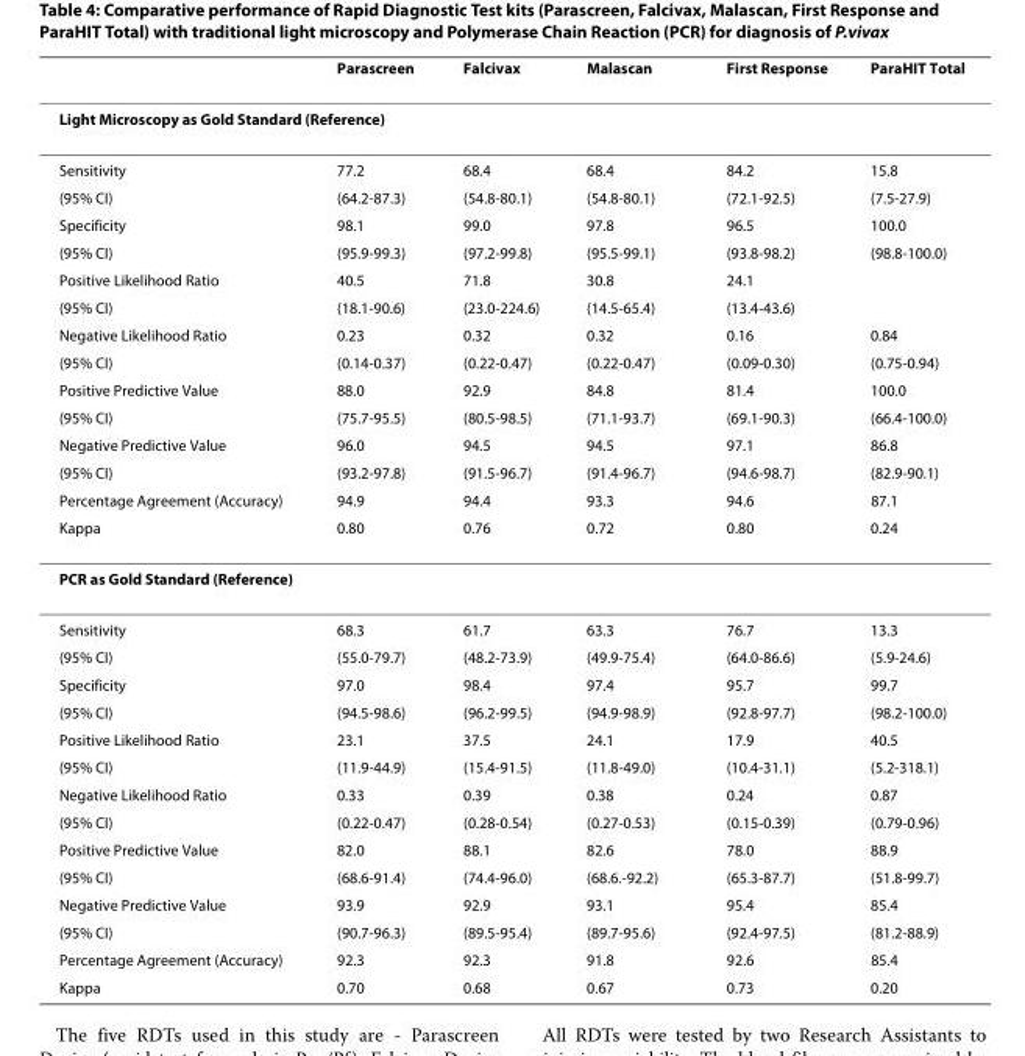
<table><thead><tr><td></td><td>Parascreen</td><td>Falcivax</td><td>Malascan</td><td>First Response</td><td>ParaHIT Total</td></tr></thead><tbody><tr><td colspan="6">Light Microscopy as Gold Standard (Reference)</td></tr><tr><td>Sensitivity</td><td>77.2</td><td>68.4</td><td>68.4</td><td>84.2</td><td>15.8</td></tr><tr><td>(95% CI)</td><td>(64.2-87.3)</td><td>(54.8-80.1)</td><td>(54.8-80.1)</td><td>(72.1-92.5)</td><td>(7.5-27.9)</td></tr><tr><td>Specificity</td><td>98.1</td><td>99.0</td><td>97.8</td><td>96.5</td><td>100.0</td></tr><tr><td>(95% CI)</td><td>(95.9-99.3)</td><td>(97.2-99.8)</td><td>(95.5-99.1)</td><td>(93.8-98.2)</td><td>(98.8-100.0)</td></tr><tr><td>Positive Likelihood Ratio</td><td>40.5</td><td>71.8</td><td>30.8</td><td>24.1</td><td></td></tr><tr><td>(95% CI)</td><td>(18.1-90.6)</td><td>(23.0-224.6)</td><td>(14.5-65.4)</td><td>(13.4-43.6)</td><td></td></tr><tr><td>Negative Likelihood Ratio</td><td>0.23</td><td>0.32</td><td>0.32</td><td>0.16</td><td>0.84</td></tr><tr><td>(95% CI)</td><td>(0.14-0.37)</td><td>(0.22-0.47)</td><td>(0.22-0.47)</td><td>(0.09-0.30)</td><td>(0.75-0.94)</td></tr><tr><td>Positive Predictive Value</td><td>88.0</td><td>92.9</td><td>84.8</td><td>81.4</td><td>100.0</td></tr><tr><td>(95% CI)</td><td>(75.7-95.5)</td><td>(80.5-98.5)</td><td>(71.1-93.7)</td><td>(69.1-90.3)</td><td>(66.4-100.0)</td></tr><tr><td>Negative Predictive Value</td><td>96.0</td><td>94.5</td><td>94.5</td><td>97.1</td><td>86.8</td></tr><tr><td>(95% CI)</td><td>(93.2-97.8)</td><td>(91.5-96.7)</td><td>(91.4-96.7)</td><td>(94.6-98.7)</td><td>(82.9-90.1)</td></tr><tr><td>Percentage Agreement (Accuracy)</td><td>94.9</td><td>94.4</td><td>93.3</td><td>94.6</td><td>87.1</td></tr><tr><td>Kappa</td><td>0.80</td><td>0.76</td><td>0.72</td><td>0.80</td><td>0.24</td></tr><tr><td colspan="6">PCR as Gold Standard (Reference)</td></tr><tr><td>Sensitivity</td><td>68.3</td><td>61.7</td><td>63.3</td><td>76.7</td><td>13.3</td></tr><tr><td>(95% CI)</td><td>(55.0-79.7)</td><td>(48.2-73.9)</td><td>(49.9-75.4)</td><td>(64.0-86.6)</td><td>(5.9-24.6)</td></tr><tr><td>Specificity</td><td>97.0</td><td>98.4</td><td>97.4</td><td>95.7</td><td>99.7</td></tr><tr><td>(95% CI)</td><td>(94.5-98.6)</td><td>(96.2-99.5)</td><td>(94.9-98.9)</td><td>(92.8-97.7)</td><td>(98.2-100.0)</td></tr><tr><td>Positive Likelihood Ratio</td><td>23.1</td><td>37.5</td><td>24.1</td><td>17.9</td><td>40.5</td></tr><tr><td>(95% CI)</td><td>(11.9-44.9)</td><td>(15.4-91.5)</td><td>(11.8-49.0)</td><td>(10.4-31.1)</td><td>(5.2-318.1)</td></tr><tr><td>Negative Likelihood Ratio</td><td>0.33</td><td>0.39</td><td>0.38</td><td>0.24</td><td>0.87</td></tr><tr><td>(95% CI)</td><td>(0.22-0.47)</td><td>(0.28-0.54)</td><td>(0.27-0.53)</td><td>(0.15-0.39)</td><td>(0.79-0.96)</td></tr><tr><td>Positive Predictive Value</td><td>82.0</td><td>88.1</td><td>82.6</td><td>78.0</td><td>88.9</td></tr><tr><td>(95% CI)</td><td>(68.6-91.4)</td><td>(74.4-96.0)</td><td>(68.6.-92.2)</td><td>(65.3-87.7)</td><td>(51.8-99.7)</td></tr><tr><td>Negative Predictive Value</td><td>93.9</td><td>92.9</td><td>93.1</td><td>95.4</td><td>85.4</td></tr><tr><td>(95% CI)</td><td>(90.7-96.3)</td><td>(89.5-95.4)</td><td>(89.7-95.6)</td><td>(92.4-97.5)</td><td>(81.2-88.9)</td></tr><tr><td>Percentage Agreement (Accuracy)</td><td>92.3</td><td>92.3</td><td>91.8</td><td>92.6</td><td>85.4</td></tr><tr><td>Kappa</td><td>0.70</td><td>0.68</td><td>0.67</td><td>0.73</td><td>0.20</td></tr></tbody></table>